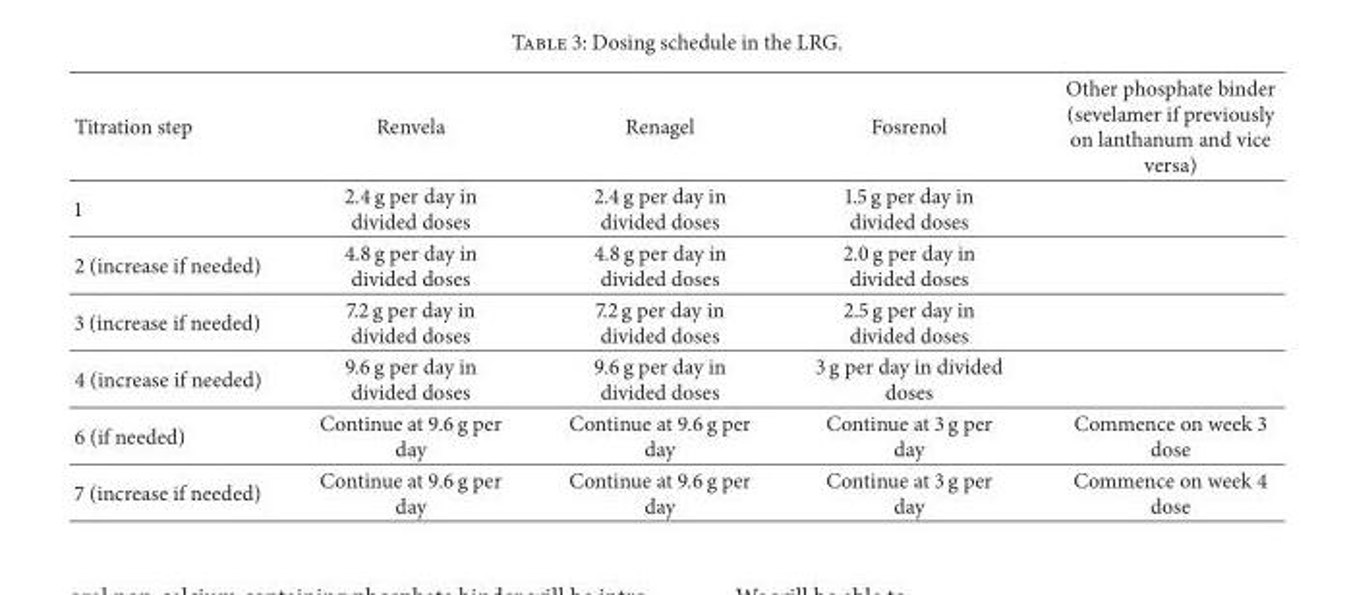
<table><thead><tr><td>Titration step</td><td>Renvela</td><td>Renagel</td><td>Fosrenol</td><td>Other phosphate binder (sevelamer if previously on lanthanum and vice versa)</td></tr></thead><tbody><tr><td>1</td><td>2.4 g per day in divided doses</td><td>2.4 g per day in divided doses</td><td>1.5 g per day in divided doses</td><td></td></tr><tr><td>2 (increase if needed)</td><td>4.8 g per day in divided doses</td><td>4.8 g per day in divided doses</td><td>2.0 g per day in divided doses</td><td></td></tr><tr><td>3 (increase if needed)</td><td>7.2 g per day in divided doses</td><td>7.2 g per day in divided doses</td><td>2.5 g per day in divided doses</td><td></td></tr><tr><td>4 (increase if needed)</td><td>9.6 g per day in divided doses</td><td>9.6 g per day in divided doses</td><td>3 g per day in divided doses</td><td></td></tr><tr><td>6 (if needed)</td><td>Continue at 9.6 g per day</td><td>Continue at 9.6 g per day</td><td>Continue at 3 g per day</td><td>Commence on week 3 dose</td></tr><tr><td>7 (increase if needed)</td><td>Continue at 9.6 g per day</td><td>Continue at 9.6 g per day</td><td>Continue at 3 g per day</td><td>Commence on week 4 dose</td></tr></tbody></table>